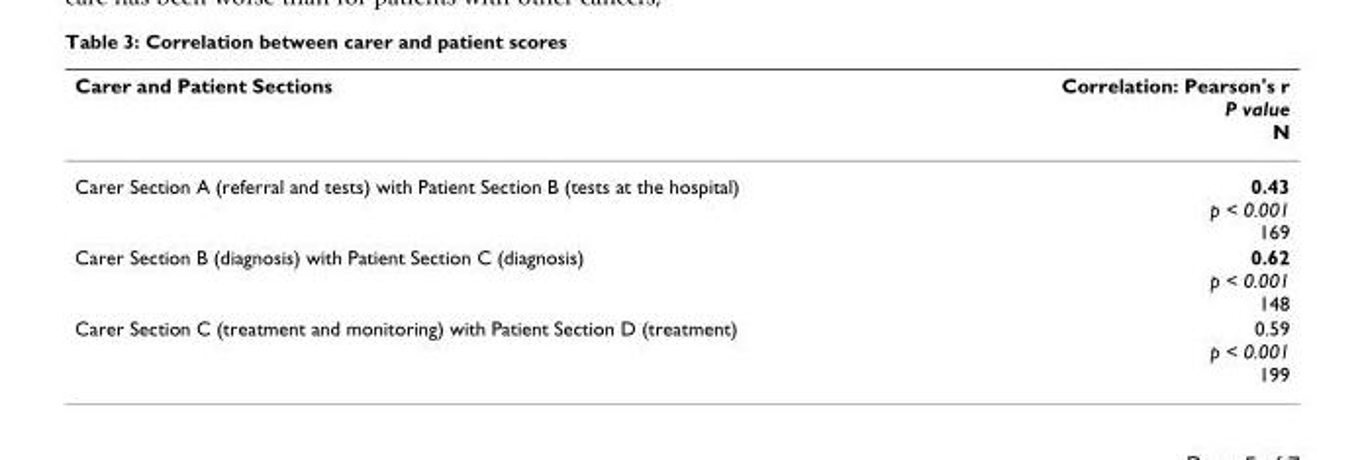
<table><thead><tr><td>Carer and Patient Sections</td><td>Correlation: Pearson&#x27;s r P value N</td></tr></thead><tbody><tr><td>Carer Section A (referral and tests) with Patient Section B (tests at the hospital)</td><td>0.43 p &lt; 0.001 169</td></tr><tr><td>Carer Section B (diagnosis) with Patient Section C (diagnosis)</td><td>0.62 p &lt; 0.001 148</td></tr><tr><td>Carer Section C (treatment and monitoring) with Patient Section D (treatment)</td><td>0.59 p &lt; 0.001 199</td></tr></tbody></table>